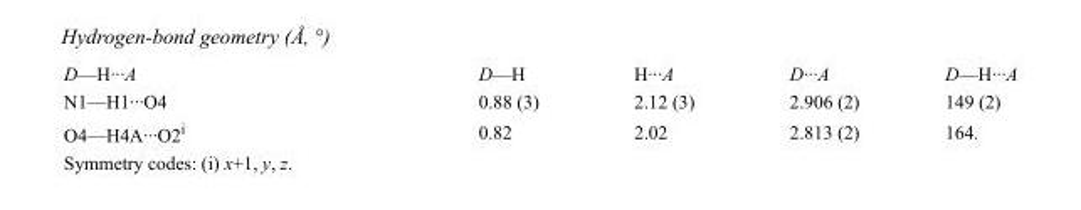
<table><tbody><tr><td>D—H···A</td><td>D—H</td><td>H···A</td><td>D···A</td><td>D—H···A</td></tr><tr><td>N1—H1···O4</td><td>0.88 (3)</td><td>2.12 (3)</td><td>2.906 (2)</td><td>149 (2)</td></tr><tr><td>O4—H4A···O2<sup>i</sup></td><td>0.82</td><td>2.02</td><td>2.813 (2)</td><td>164.</td></tr></tbody></table>